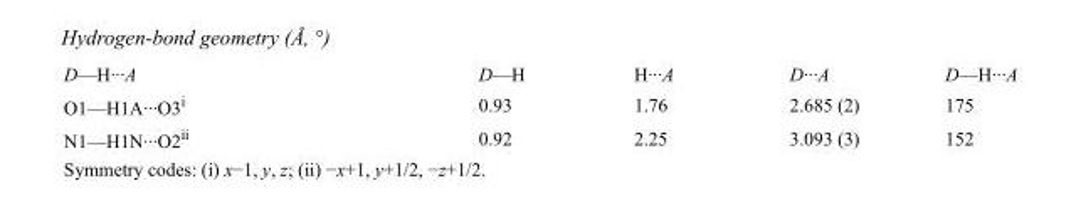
<table><tbody><tr><td>D—H···A</td><td>D—H</td><td>H···A</td><td>D···A</td><td>D—H···A</td></tr><tr><td>O1—H1A···O3<sup>i</sup></td><td>0.93</td><td>1.76</td><td>2.685 (2)</td><td>175</td></tr><tr><td>N1—H1N···O2<sup>ii</sup></td><td>0.92</td><td>2.25</td><td>3.093 (3)</td><td>152</td></tr></tbody></table>